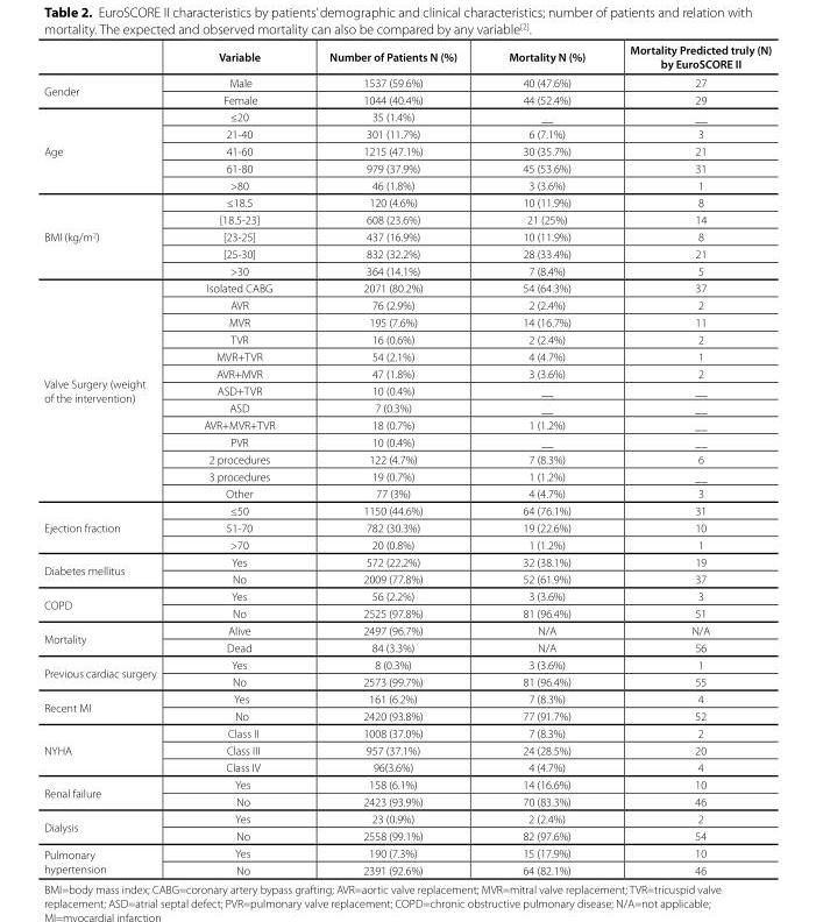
<table><thead><tr><td></td><td>Variable</td><td>Number of Patients N (%)</td><td>Mortality N (%)</td><td>Mortality Predicted truly (N) by EuroSCORE II</td></tr></thead><tbody><tr><td rowspan="2">Gender</td><td>Male</td><td>1537 (59.6%)</td><td>40 (47.6%)</td><td>27</td></tr><tr><td>Female</td><td>1044 (40.4%)</td><td>44 (52.4%)</td><td>29</td></tr><tr><td rowspan="5">Age</td><td>≤20</td><td>35 (1.4%)</td><td>__</td><td>__</td></tr><tr><td>21-40</td><td>301 (11.7%)</td><td>6 (7.1%)</td><td>3</td></tr><tr><td>41-60</td><td>1215 (47.1%)</td><td>30 (35.7%)</td><td>21</td></tr><tr><td>61-80</td><td>979 (37.9%)</td><td>45 (53.6%)</td><td>31</td></tr><tr><td>&gt;80</td><td>46 (1.8%)</td><td>3 (3.6%)</td><td>1</td></tr><tr><td rowspan="5">BMI (kg/m<sup>2</sup>)</td><td>≤18.5</td><td>120 (4.6%)</td><td>10 (11.9%)</td><td>8</td></tr><tr><td>[18.5-23]</td><td>608 (23.6%)</td><td>21 (25%)</td><td>14</td></tr><tr><td>[23-25]</td><td>437 (16.9%)</td><td>10 (11.9%)</td><td>8</td></tr><tr><td>[25-30]</td><td>832 (32.2%)</td><td>28 (33.4%)</td><td>21</td></tr><tr><td>&gt;30</td><td>364 (14.1%)</td><td>7 (8.4%)</td><td>5</td></tr><tr><td rowspan="13">Valve Surgery (weight of the intervention)</td><td>Isolated CABG</td><td>2071 (80.2%)</td><td>54 (64.3%)</td><td>37</td></tr><tr><td>AVR</td><td>76 (2.9%)</td><td>2 (2.4%)</td><td>2</td></tr><tr><td>MVR</td><td>195 (7.6%)</td><td>14 (16.7%)</td><td>11</td></tr><tr><td>TVR</td><td>16 (0.6%)</td><td>2 (2.4%)</td><td>2</td></tr><tr><td>MVR+TVR</td><td>54 (2.1%)</td><td>4 (4.7%)</td><td>1</td></tr><tr><td>AVR+MVR</td><td>47 (1.8%)</td><td>3 (3.6%)</td><td>2</td></tr><tr><td>ASD+TVR</td><td>10 (0.4%)</td><td>__</td><td>__</td></tr><tr><td>ASD</td><td>7 (0.3%)</td><td>__</td><td>__</td></tr><tr><td>AVR+MVR+TVR</td><td>18 (0.7%)</td><td>1 (1.2%)</td><td>__</td></tr><tr><td>PVR</td><td>10 (0.4%)</td><td>__</td><td>__</td></tr><tr><td>2 procedures</td><td>122 (4.7%)</td><td>7 (8.3%)</td><td>6</td></tr><tr><td>3 procedures</td><td>19 (0.7%)</td><td>1 (1.2%)</td><td>__</td></tr><tr><td>Other</td><td>77 (3%)</td><td>4 (4.7%)</td><td>3</td></tr><tr><td rowspan="3">Ejection fraction</td><td>≤50</td><td>1150 (44.6%)</td><td>64 (76.1%)</td><td>31</td></tr><tr><td>51-70</td><td>782 (30.3%)</td><td>19 (22.6%)</td><td>10</td></tr><tr><td>&gt;70</td><td>20 (0.8%)</td><td>1 (1.2%)</td><td>1</td></tr><tr><td rowspan="2">Diabetes mellitus</td><td>Yes</td><td>572 (22.2%)</td><td>32 (38.1%)</td><td>19</td></tr><tr><td>No</td><td>2009 (77.8%)</td><td>52 (61.9%)</td><td>37</td></tr><tr><td rowspan="2">COPD</td><td>Yes</td><td>56 (2.2%)</td><td>3 (3.6%)</td><td>3</td></tr><tr><td>No</td><td>2525 (97.8%)</td><td>81 (96.4%)</td><td>51</td></tr><tr><td rowspan="2">Mortality</td><td>Alive</td><td>2497 (96.7%)</td><td>N/A</td><td>N/A</td></tr><tr><td>Dead</td><td>84 (3.3%)</td><td>N/A</td><td>56</td></tr><tr><td rowspan="2">Previous cardiac surgery</td><td>Yes</td><td>8 (0.3%)</td><td>3 (3.6%)</td><td>1</td></tr><tr><td>No</td><td>2573 (99.7%)</td><td>81 (96.4%)</td><td>55</td></tr><tr><td rowspan="2">Recent MI</td><td>Yes</td><td>161 (6.2%)</td><td>7 (8.3%)</td><td>4</td></tr><tr><td>No</td><td>2420 (93.8%)</td><td>77 (91.7%)</td><td>52</td></tr><tr><td rowspan="3">NYHA</td><td>Class II</td><td>1008 (37.0%)</td><td>7 (8.3%)</td><td>2</td></tr><tr><td>Class III</td><td>957 (37.1%)</td><td>24 (28.5%)</td><td>20</td></tr><tr><td>Class IV</td><td>96(3.6%)</td><td>4 (4.7%)</td><td>4</td></tr><tr><td rowspan="2">Renal failure</td><td>Yes</td><td>158 (6.1%)</td><td>14 (16.6%)</td><td>10</td></tr><tr><td>No</td><td>2423 (93.9%)</td><td>70 (83.3%)</td><td>46</td></tr><tr><td rowspan="2">Dialysis</td><td>Yes</td><td>23 (0.9%)</td><td>2 (2.4%)</td><td>2</td></tr><tr><td>No</td><td>2558 (99.1%)</td><td>82 (97.6%)</td><td>54</td></tr><tr><td rowspan="2">Pulmonary hypertension</td><td>Yes</td><td>190 (7.3%)</td><td>15 (17.9%)</td><td>10</td></tr><tr><td>No</td><td>2391 (92.6%)</td><td>64 (82.1%)</td><td>46</td></tr></tbody></table>